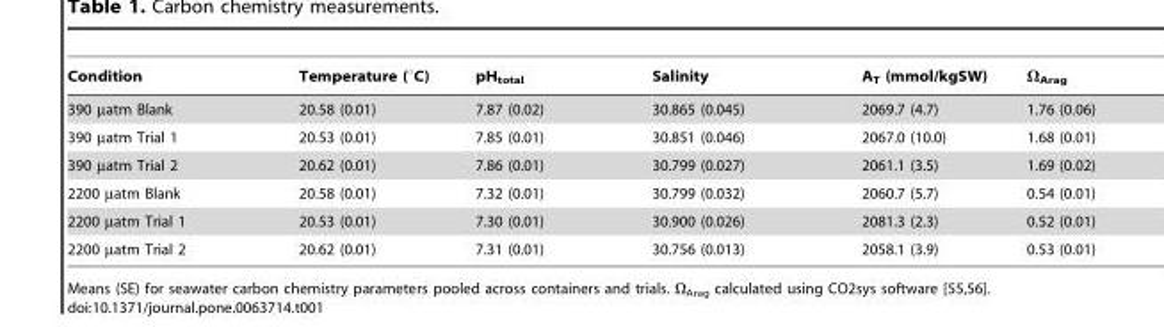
<table><thead><tr><td>Condition</td><td>Temperature (°C)</td><td>pH<sub>total</sub></td><td>Salinity</td><td>A<sub>T</sub> (mmol/kgSW)</td><td>Ω<sub>Arag</sub></td></tr></thead><tbody><tr><td>390 µatm Blank</td><td>20.58 (0.01)</td><td>7.87 (0.02)</td><td>30.865 (0.045)</td><td>2069.7 (4.7)</td><td>1.76 (0.06)</td></tr><tr><td>390 µatm Trial 1</td><td>20.53 (0.01)</td><td>7.85 (0.01)</td><td>30.851 (0.046)</td><td>2067.0 (10.0)</td><td>1.68 (0.01)</td></tr><tr><td>390 µatm Trial 2</td><td>20.62 (0.01)</td><td>7.86 (0.01)</td><td>30.799 (0.027)</td><td>2061.1 (3.5)</td><td>1.69 (0.02)</td></tr><tr><td>2200 µatm Blank</td><td>20.58 (0.01)</td><td>7.32 (0.01)</td><td>30.799 (0.032)</td><td>2060.7 (5.7)</td><td>0.54 (0.01)</td></tr><tr><td>2200 µatm Trial 1</td><td>20.53 (0.01)</td><td>7.30 (0.01)</td><td>30.900 (0.026)</td><td>2081.3 (2.3)</td><td>0.52 (0.01)</td></tr><tr><td>2200 µatm Trial 2</td><td>20.62 (0.01)</td><td>7.31 (0.01)</td><td>30.756 (0.013)</td><td>2058.1 (3.9)</td><td>0.53 (0.01)</td></tr></tbody></table>